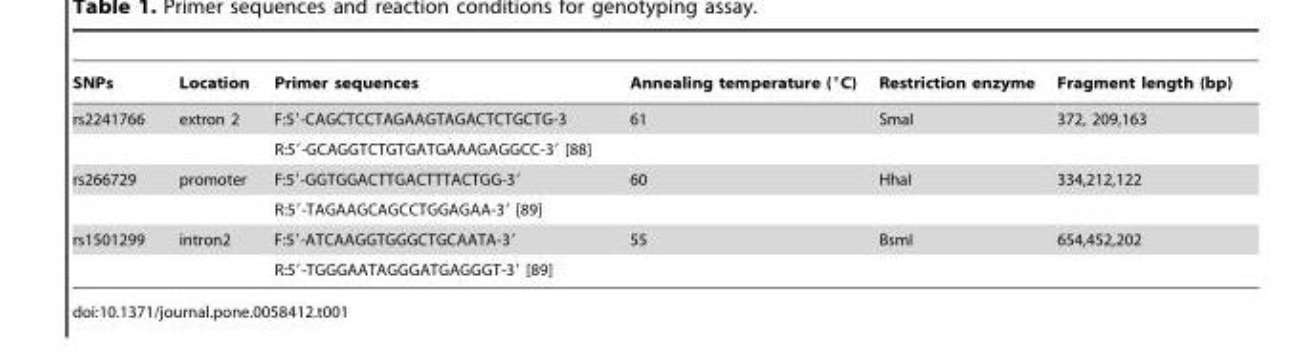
<table><thead><tr><td>SNPs</td><td>Location</td><td>Primer sequences</td><td>Annealing temperature (°C)</td><td>Restriction enzyme</td><td>Fragment length (bp)</td></tr></thead><tbody><tr><td rowspan="2">rs2241766</td><td>extron 2</td><td>F:5′-CAGCTCCTAGAAGTAGACTCTGCTG-3</td><td>61</td><td>SmaI</td><td>372, 209,163</td></tr><tr><td></td><td>R:5′-GCAGGTCTGTGATGAAAGAGGCC-3′ [88]</td><td></td><td></td><td></td></tr><tr><td rowspan="2">rs266729</td><td>promoter</td><td>F:5′-GGTGGACTTGACTTTACTGG-3′</td><td>60</td><td>HhaI</td><td>334,212,122</td></tr><tr><td></td><td>R:5′-TAGAAGCAGCCTGGAGAA-3′ [89]</td><td></td><td></td><td></td></tr><tr><td rowspan="2">rs1501299</td><td>intron2</td><td>F:5′-ATCAAGGTGGGCTGCAATA-3′</td><td>55</td><td>BsmI</td><td>654,452,202</td></tr><tr><td></td><td>R:5′-TGGGAATAGGGATGAGGGT-3′ [89]</td><td></td><td></td><td></td></tr></tbody></table>